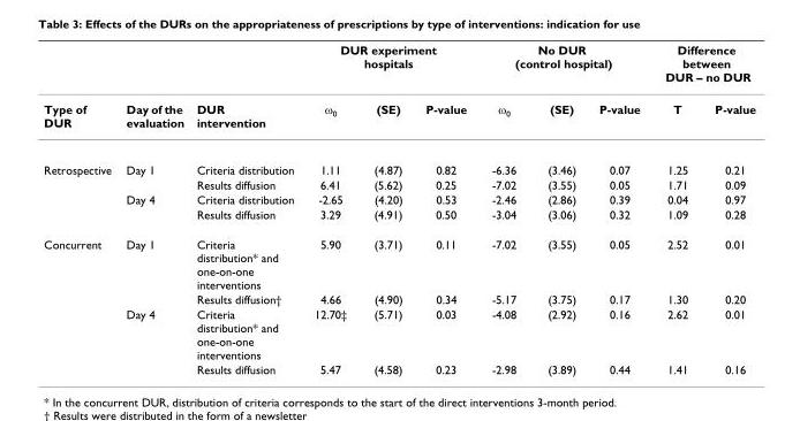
<table><thead><tr><td rowspan="2">Type of DUR</td><td rowspan="2">Day of the evaluation</td><td rowspan="2">DUR intervention</td><td colspan="3">DUR experiment hospitals</td><td colspan="3">No DUR (control hospital)</td><td colspan="2">Difference between DUR – no DUR</td></tr><tr><td>ω0</td><td>(SE)</td><td>P-value</td><td>ω0</td><td>(SE)</td><td>P-value</td><td>T</td><td>P-value</td></tr></thead><tbody><tr><td rowspan="4">Retrospective</td><td>Day 1</td><td>Criteria distribution</td><td>1.11</td><td>(4.87)</td><td>0.82</td><td>-6.36</td><td>(3.46)</td><td>0.07</td><td>1.25</td><td>0.21</td></tr><tr><td></td><td>Results diffusion</td><td>6.41</td><td>(5.62)</td><td>0.25</td><td>-7.02</td><td>(3.55)</td><td>0.05</td><td>1.71</td><td>0.09</td></tr><tr><td>Day 4</td><td>Criteria distribution</td><td>-2.65</td><td>(4.20)</td><td>0.53</td><td>-2.46</td><td>(2.86)</td><td>0.39</td><td>0.04</td><td>0.97</td></tr><tr><td></td><td>Results diffusion</td><td>3.29</td><td>(4.91)</td><td>0.50</td><td>-3.04</td><td>(3.06)</td><td>0.32</td><td>1.09</td><td>0.28</td></tr><tr><td rowspan="4">Concurrent</td><td>Day 1</td><td>Criteria distribution* and one-on-one interventions</td><td>5.90</td><td>(3.71)</td><td>0.11</td><td>-7.02</td><td>(3.55)</td><td>0.05</td><td>2.52</td><td>0.01</td></tr><tr><td></td><td>Results diffusion†</td><td>4.66</td><td>(4.90)</td><td>0.34</td><td>-5.17</td><td>(3.75)</td><td>0.17</td><td>1.30</td><td>0.20</td></tr><tr><td>Day 4</td><td>Criteria distribution* and one-on-one interventions</td><td>12.70‡</td><td>(5.71)</td><td>0.03</td><td>-4.08</td><td>(2.92)</td><td>0.16</td><td>2.62</td><td>0.01</td></tr><tr><td></td><td>Results diffusion</td><td>5.47</td><td>(4.58)</td><td>0.23</td><td>-2.98</td><td>(3.89)</td><td>0.44</td><td>1.41</td><td>0.16</td></tr></tbody></table>